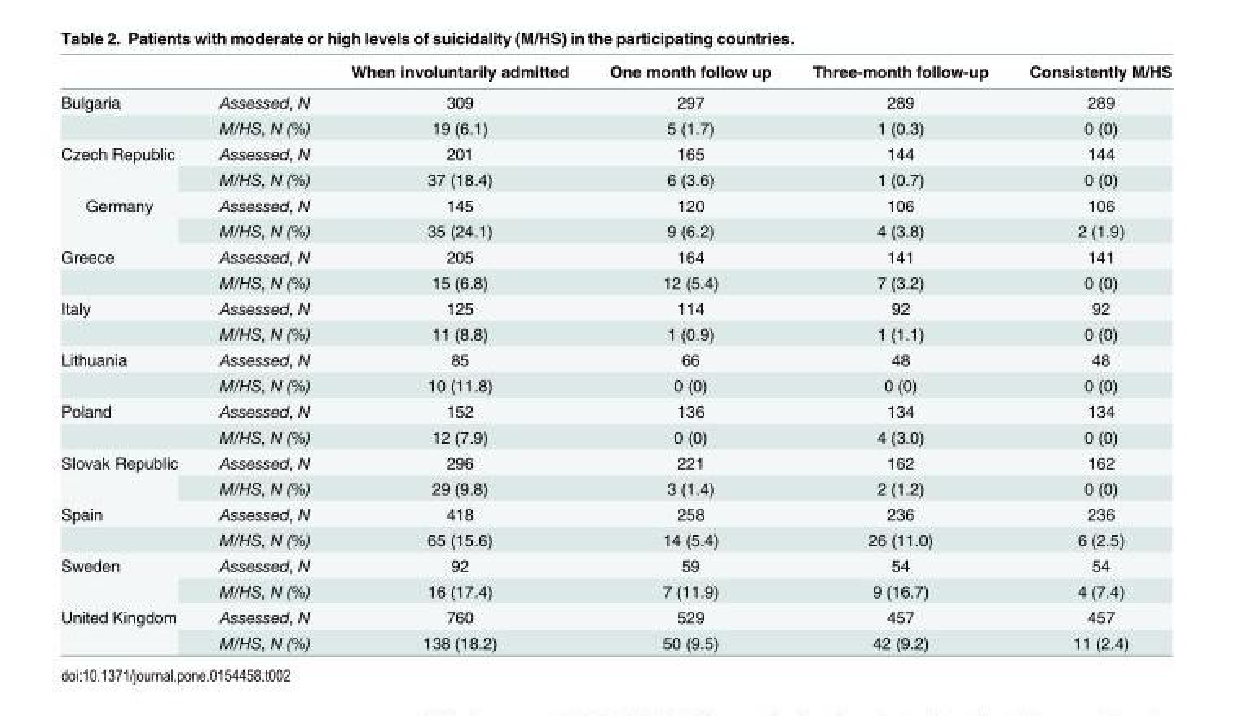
<table><thead><tr><td></td><td></td><td>When involuntarily admitted</td><td>One month follow up</td><td>Three-month follow-up</td><td>Consistently M/HS</td></tr></thead><tbody><tr><td rowspan="2">Bulgaria</td><td>Assessed, N</td><td>309</td><td>297</td><td>289</td><td>289</td></tr><tr><td>M/HS, N (%)</td><td>19 (6.1)</td><td>5 (1.7)</td><td>1 (0.3)</td><td>0 (0)</td></tr><tr><td rowspan="2">Czech Republic</td><td>Assessed, N</td><td>201</td><td>165</td><td>144</td><td>144</td></tr><tr><td>M/HS, N (%)</td><td>37 (18.4)</td><td>6 (3.6)</td><td>1 (0.7)</td><td>0 (0)</td></tr><tr><td rowspan="2">Germany</td><td>Assessed, N</td><td>145</td><td>120</td><td>106</td><td>106</td></tr><tr><td>M/HS, N (%)</td><td>35 (24.1)</td><td>9 (6.2)</td><td>4 (3.8)</td><td>2 (1.9)</td></tr><tr><td rowspan="2">Greece</td><td>Assessed, N</td><td>205</td><td>164</td><td>141</td><td>141</td></tr><tr><td>M/HS, N (%)</td><td>15 (6.8)</td><td>12 (5.4)</td><td>7 (3.2)</td><td>0 (0)</td></tr><tr><td rowspan="2">Italy</td><td>Assessed, N</td><td>125</td><td>114</td><td>92</td><td>92</td></tr><tr><td>M/HS, N (%)</td><td>11 (8.8)</td><td>1 (0.9)</td><td>1 (1.1)</td><td>0 (0)</td></tr><tr><td rowspan="2">Lithuania</td><td>Assessed, N</td><td>85</td><td>66</td><td>48</td><td>48</td></tr><tr><td>M/HS, N (%)</td><td>10 (11.8)</td><td>0 (0)</td><td>0 (0)</td><td>0 (0)</td></tr><tr><td rowspan="2">Poland</td><td>Assessed, N</td><td>152</td><td>136</td><td>134</td><td>134</td></tr><tr><td>M/HS, N (%)</td><td>12 (7.9)</td><td>0 (0)</td><td>4 (3.0)</td><td>0 (0)</td></tr><tr><td rowspan="2">Slovak Republic</td><td>Assessed, N</td><td>296</td><td>221</td><td>162</td><td>162</td></tr><tr><td>M/HS, N (%)</td><td>29 (9.8)</td><td>3 (1.4)</td><td>2 (1.2)</td><td>0 (0)</td></tr><tr><td rowspan="2">Spain</td><td>Assessed, N</td><td>418</td><td>258</td><td>236</td><td>236</td></tr><tr><td>M/HS, N (%)</td><td>65 (15.6)</td><td>14 (5.4)</td><td>26 (11.0)</td><td>6 (2.5)</td></tr><tr><td rowspan="2">Sweden</td><td>Assessed, N</td><td>92</td><td>59</td><td>54</td><td>54</td></tr><tr><td>M/HS, N (%)</td><td>16 (17.4)</td><td>7 (11.9)</td><td>9 (16.7)</td><td>4 (7.4)</td></tr><tr><td rowspan="2">United Kingdom</td><td>Assessed, N</td><td>760</td><td>529</td><td>457</td><td>457</td></tr><tr><td>M/HS, N (%)</td><td>138 (18.2)</td><td>50 (9.5)</td><td>42 (9.2)</td><td>11 (2.4)</td></tr></tbody></table>